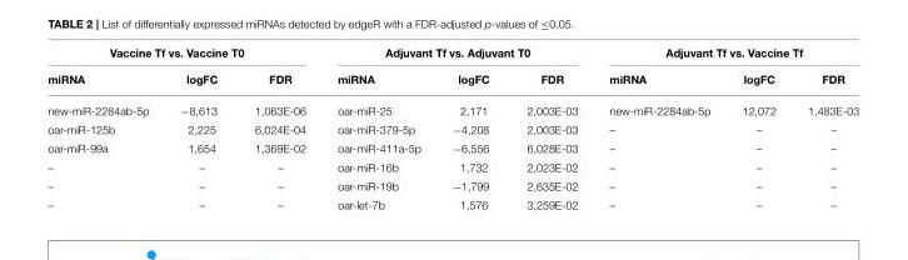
<table><thead><tr><td colspan="3">Vaccine Tf vs. Vaccine T0</td><td colspan="3">Adjuvant Tf vs. Adjuvant T0</td><td colspan="3">Adjuvant Tf vs. Vaccine Tf</td></tr><tr><td>miRNA</td><td>logFC</td><td>FDR</td><td>miRNA</td><td>logFC</td><td>FDR</td><td>miRNA</td><td>logFC</td><td>FDR</td></tr></thead><tbody><tr><td>new-miR-2284ab-5p</td><td>−8,613</td><td>1,063E-06</td><td>oar-miR-25</td><td>2,171</td><td>2,003E-03</td><td>new-miR-2284ab-5p</td><td>12,072</td><td>1,483E-03</td></tr><tr><td>oar-miR-125b</td><td>2,225</td><td>6,024E-04</td><td>oar-miR-379-5p</td><td>−4,208</td><td>2,003E-03</td><td>–</td><td>–</td><td>–</td></tr><tr><td>oar-miR-99a</td><td>1,654</td><td>1,369E-02</td><td>oar-miR-411a-5p</td><td>−6,556</td><td>6,028E-03</td><td>–</td><td>–</td><td>–</td></tr><tr><td>–</td><td>–</td><td>–</td><td>oar-miR-16b</td><td>1,732</td><td>2,023E-02</td><td>–</td><td>–</td><td>–</td></tr><tr><td>–</td><td>–</td><td>–</td><td>oar-miR-19b</td><td>−1,799</td><td>2,635E-02</td><td>–</td><td>–</td><td>–</td></tr><tr><td>–</td><td>–</td><td>–</td><td>oar-let-7b</td><td>1,576</td><td>3,259E-02</td><td>–</td><td>–</td><td>–</td></tr></tbody></table>